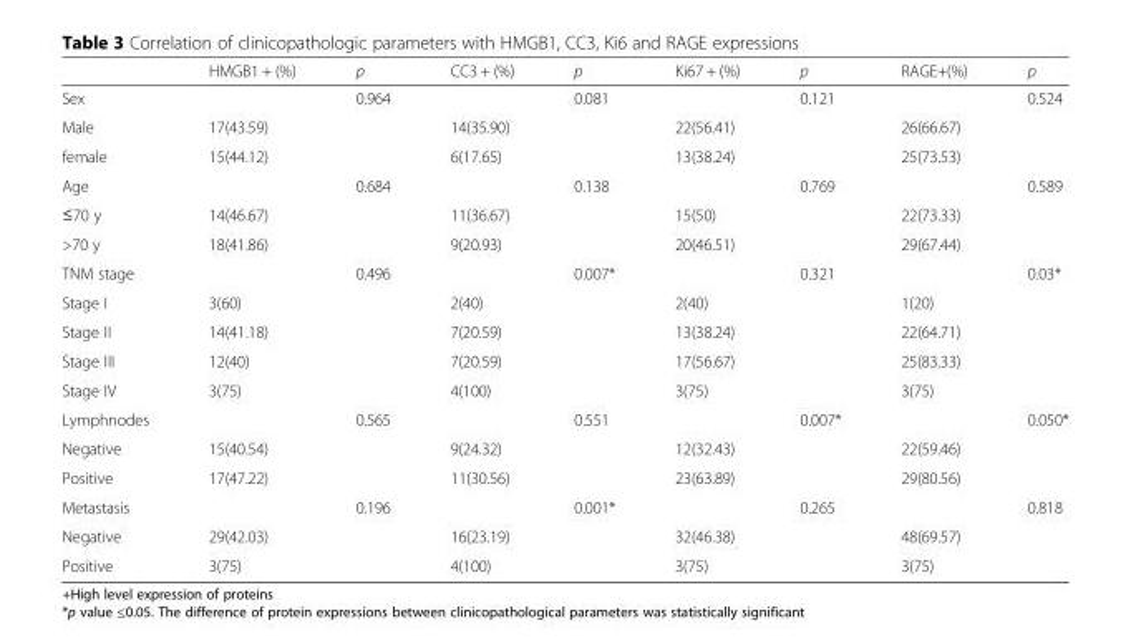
<table><thead><tr><td></td><td>HMGB1 + (%)</td><td>p</td><td>CC3 + (%)</td><td>p</td><td>Ki67 + (%)</td><td>p</td><td>RAGE+(%)</td><td>p</td></tr></thead><tbody><tr><td>Sex</td><td></td><td>0.964</td><td></td><td>0.081</td><td></td><td>0.121</td><td></td><td>0.524</td></tr><tr><td>Male</td><td>17(43.59)</td><td></td><td>14(35.90)</td><td></td><td>22(56.41)</td><td></td><td>26(66.67)</td><td></td></tr><tr><td>female</td><td>15(44.12)</td><td></td><td>6(17.65)</td><td></td><td>13(38.24)</td><td></td><td>25(73.53)</td><td></td></tr><tr><td>Age</td><td></td><td>0.684</td><td></td><td>0.138</td><td></td><td>0.769</td><td></td><td>0.589</td></tr><tr><td>≤70 y</td><td>14(46.67)</td><td></td><td>11(36.67)</td><td></td><td>15(50)</td><td></td><td>22(73.33)</td><td></td></tr><tr><td>&gt;70 y</td><td>18(41.86)</td><td></td><td>9(20.93)</td><td></td><td>20(46.51)</td><td></td><td>29(67.44)</td><td></td></tr><tr><td>TNM stage</td><td></td><td>0.496</td><td></td><td>0.007*</td><td></td><td>0.321</td><td></td><td>0.03*</td></tr><tr><td>Stage I</td><td>3(60)</td><td></td><td>2(40)</td><td></td><td>2(40)</td><td></td><td>1(20)</td><td></td></tr><tr><td>Stage II</td><td>14(41.18)</td><td></td><td>7(20.59)</td><td></td><td>13(38.24)</td><td></td><td>22(64.71)</td><td></td></tr><tr><td>Stage III</td><td>12(40)</td><td></td><td>7(20.59)</td><td></td><td>17(56.67)</td><td></td><td>25(83.33)</td><td></td></tr><tr><td>Stage IV</td><td>3(75)</td><td></td><td>4(100)</td><td></td><td>3(75)</td><td></td><td>3(75)</td><td></td></tr><tr><td>Lymphnodes</td><td></td><td>0.565</td><td></td><td>0.551</td><td></td><td>0.007*</td><td></td><td>0.050*</td></tr><tr><td>Negative</td><td>15(40.54)</td><td></td><td>9(24.32)</td><td></td><td>12(32.43)</td><td></td><td>22(59.46)</td><td></td></tr><tr><td>Positive</td><td>17(47.22)</td><td></td><td>11(30.56)</td><td></td><td>23(63.89)</td><td></td><td>29(80.56)</td><td></td></tr><tr><td>Metastasis</td><td></td><td>0.196</td><td></td><td>0.001*</td><td></td><td>0.265</td><td></td><td>0.818</td></tr><tr><td>Negative</td><td>29(42.03)</td><td></td><td>16(23.19)</td><td></td><td>32(46.38)</td><td></td><td>48(69.57)</td><td></td></tr><tr><td>Positive</td><td>3(75)</td><td></td><td>4(100)</td><td></td><td>3(75)</td><td></td><td>3(75)</td><td></td></tr></tbody></table>